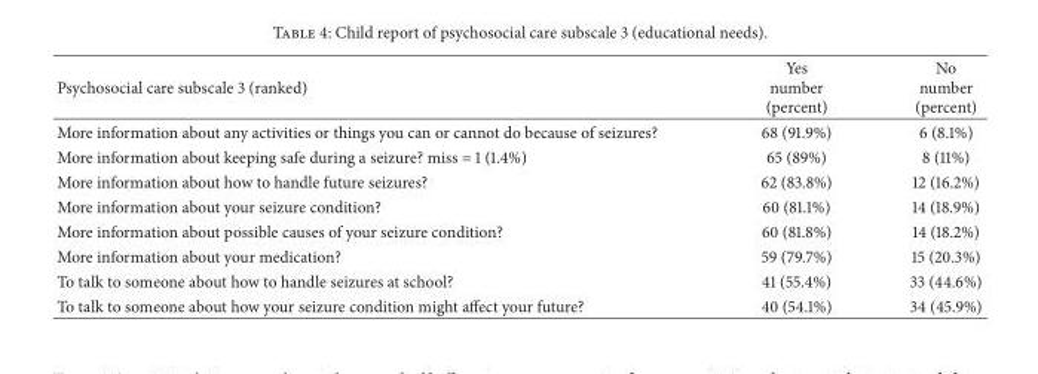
<table><thead><tr><td>Psychosocial care subscale 3 (ranked)</td><td>Yes number (percent)</td><td>No number (percent)</td></tr></thead><tbody><tr><td>More information about any activities or things you can or cannot do because of seizures?</td><td>68 (91.9%)</td><td>6 (8.1%)</td></tr><tr><td>More information about keeping safe during a seizure? miss = 1 (1.4%)</td><td>65 (89%)</td><td>8 (11%)</td></tr><tr><td>More information about how to handle future seizures?</td><td>62 (83.8%)</td><td>12 (16.2%)</td></tr><tr><td>More information about your seizure condition?</td><td>60 (81.1%)</td><td>14 (18.9%)</td></tr><tr><td>More information about possible causes of your seizure condition?</td><td>60 (81.8%)</td><td>14 (18.2%)</td></tr><tr><td>More information about your medication?</td><td>59 (79.7%)</td><td>15 (20.3%)</td></tr><tr><td>To talk to someone about how to handle seizures at school?</td><td>41 (55.4%)</td><td>33 (44.6%)</td></tr><tr><td>To talk to someone about how your seizure condition might affect your future?</td><td>40 (54.1%)</td><td>34 (45.9%)</td></tr></tbody></table>